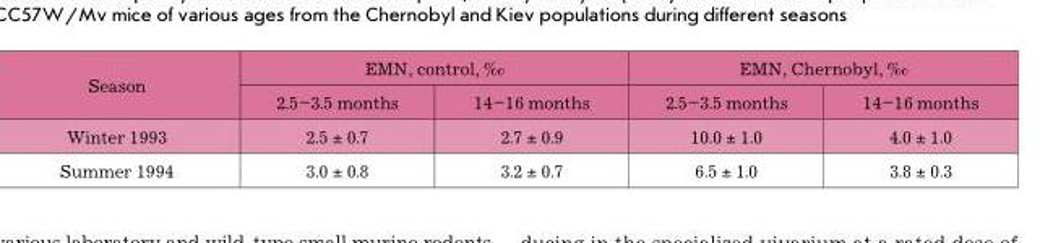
<table><thead><tr><td rowspan="2">Season</td><td colspan="2">eMn, control, ‰</td><td colspan="2">eMn, chernobyl, ‰</td></tr><tr><td>2.5–3.5 months</td><td>14–16 months</td><td>2.5–3.5 months</td><td>14–16 months</td></tr></thead><tbody><tr><td>Winter 1993</td><td>2.5 ± 0.7</td><td>2.7 ± 0.9</td><td>10.0 ± 1.0</td><td>4.0 ± 1.0</td></tr><tr><td>Summer 1994</td><td>3.0 ± 0.8</td><td>3.2 ± 0.7</td><td>6.5 ± 1.0</td><td>3.8 ± 0.3</td></tr></tbody></table>